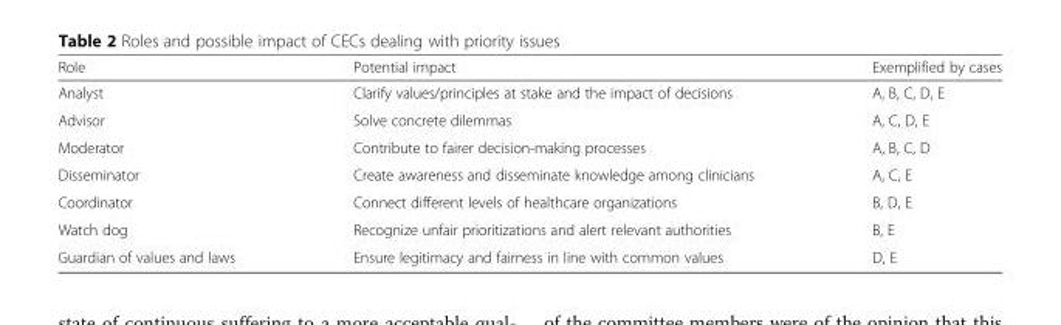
<table><thead><tr><td>Role</td><td>Potential impact</td><td>Exemplified by cases</td></tr></thead><tbody><tr><td>Analyst</td><td>Clarify values/principles at stake and the impact of decisions</td><td>A, B, C, D, E</td></tr><tr><td>Advisor</td><td>Solve concrete dilemmas</td><td>A, C, D, E</td></tr><tr><td>Moderator</td><td>Contribute to fairer decision-making processes</td><td>A, B, C, D</td></tr><tr><td>Disseminator</td><td>Create awareness and disseminate knowledge among clinicians</td><td>A, C, E</td></tr><tr><td>Coordinator</td><td>Connect different levels of healthcare organizations</td><td>B, D, E</td></tr><tr><td>Watch dog</td><td>Recognize unfair prioritizations and alert relevant authorities</td><td>B, E</td></tr><tr><td>Guardian of values and laws</td><td>Ensure legitimacy and fairness in line with common values</td><td>D, E</td></tr></tbody></table>